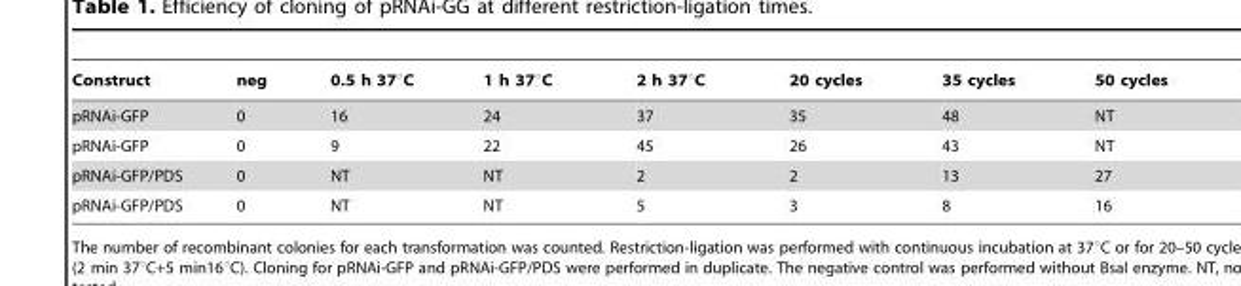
<table><thead><tr><td>Construct</td><td>neg</td><td>0.5 h 37°C</td><td>1 h 37°C</td><td>2 h 37°C</td><td>20 cycles</td><td>35 cycles</td><td>50 cycles</td></tr></thead><tbody><tr><td>pRNAi-GFP</td><td>0</td><td>16</td><td>24</td><td>37</td><td>35</td><td>48</td><td>NT</td></tr><tr><td>pRNAi-GFP</td><td>0</td><td>9</td><td>22</td><td>45</td><td>26</td><td>43</td><td>NT</td></tr><tr><td>pRNAi-GFP/PDS</td><td>0</td><td>NT</td><td>NT</td><td>2</td><td>2</td><td>13</td><td>27</td></tr><tr><td>pRNAi-GFP/PDS</td><td>0</td><td>NT</td><td>NT</td><td>5</td><td>3</td><td>8</td><td>16</td></tr></tbody></table>